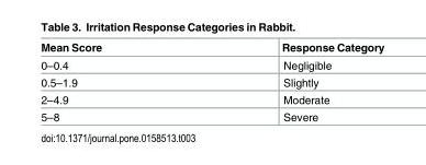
<table><thead><tr><td>Mean Score</td><td>Response Category</td></tr></thead><tbody><tr><td>0–0.4</td><td>Negligible</td></tr><tr><td>0.5–1.9</td><td>Slightly</td></tr><tr><td>2–4.9</td><td>Moderate</td></tr><tr><td>5–8</td><td>Severe</td></tr></tbody></table>